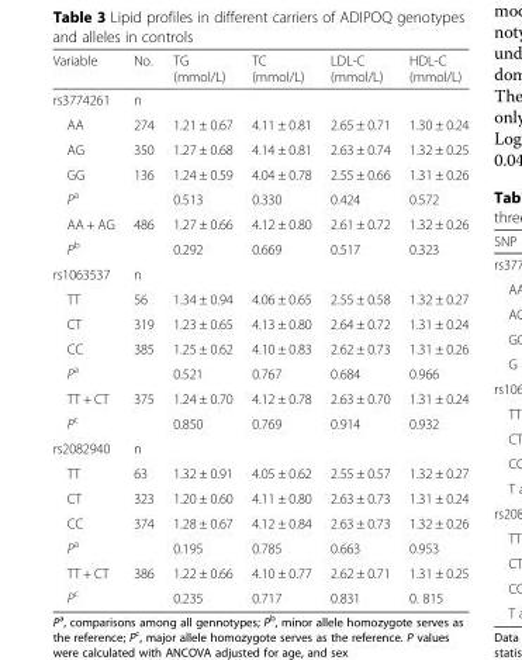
<table><thead><tr><td>Variable</td><td>No.</td><td>TG (mmol/L)</td><td>TC (mmol/L)</td><td>LDL-C (mmol/L)</td><td>HDL-C (mmol/L)</td></tr></thead><tbody><tr><td>rs3774261</td><td>n</td><td></td><td></td><td></td><td></td></tr><tr><td>AA</td><td>274</td><td>1.21 ± 0.67</td><td>4.11 ± 0.81</td><td>2.65 ± 0.71</td><td>1.30 ± 0.24</td></tr><tr><td>AG</td><td>350</td><td>1.27 ± 0.68</td><td>4.14 ± 0.81</td><td>2.63 ± 0.74</td><td>1.32 ± 0.25</td></tr><tr><td>GG</td><td>136</td><td>1.24 ± 0.59</td><td>4.04 ± 0.78</td><td>2.55 ± 0.66</td><td>1.31 ± 0.26</td></tr><tr><td>P<sup>a</sup></td><td></td><td>0.513</td><td>0.330</td><td>0.424</td><td>0.572</td></tr><tr><td>AA + AG</td><td>486</td><td>1.27 ± 0.66</td><td>4.12 ± 0.80</td><td>2.61 ± 0.72</td><td>1.32 ± 0.26</td></tr><tr><td>P<sup>b</sup></td><td></td><td>0.292</td><td>0.669</td><td>0.517</td><td>0.323</td></tr><tr><td>rs1063537</td><td>n</td><td></td><td></td><td></td><td></td></tr><tr><td>TT</td><td>56</td><td>1.34 ± 0.94</td><td>4.06 ± 0.65</td><td>2.55 ± 0.58</td><td>1.32 ± 0.27</td></tr><tr><td>CT</td><td>319</td><td>1.23 ± 0.65</td><td>4.13 ± 0.80</td><td>2.64 ± 0.72</td><td>1.31 ± 0.24</td></tr><tr><td>CC</td><td>385</td><td>1.25 ± 0.62</td><td>4.10 ± 0.83</td><td>2.62 ± 0.73</td><td>1.31 ± 0.26</td></tr><tr><td>P<sup>a</sup></td><td></td><td>0.521</td><td>0.767</td><td>0.684</td><td>0.966</td></tr><tr><td>TT + CT</td><td>375</td><td>1.24 ± 0.70</td><td>4.12 ± 0.78</td><td>2.63 ± 0.70</td><td>1.31 ± 0.24</td></tr><tr><td>P<sup>c</sup></td><td></td><td>0.850</td><td>0.769</td><td>0.914</td><td>0.932</td></tr><tr><td>rs2082940</td><td>n</td><td></td><td></td><td></td><td></td></tr><tr><td>TT</td><td>63</td><td>1.32 ± 0.91</td><td>4.05 ± 0.62</td><td>2.55 ± 0.57</td><td>1.32 ± 0.27</td></tr><tr><td>CT</td><td>323</td><td>1.20 ± 0.60</td><td>4.11 ± 0.80</td><td>2.63 ± 0.73</td><td>1.31 ± 0.24</td></tr><tr><td>CC</td><td>374</td><td>1.28 ± 0.67</td><td>4.12 ± 0.84</td><td>2.63 ± 0.73</td><td>1.32 ± 0.26</td></tr><tr><td>P<sup>a</sup></td><td></td><td>0.195</td><td>0.785</td><td>0.663</td><td>0.953</td></tr><tr><td>TT + CT</td><td>386</td><td>1.22 ± 0.66</td><td>4.10 ± 0.77</td><td>2.62 ± 0.71</td><td>1.31 ± 0.25</td></tr><tr><td>P<sup>c</sup></td><td></td><td>0.235</td><td>0.717</td><td>0.831</td><td>0. 815</td></tr></tbody></table>